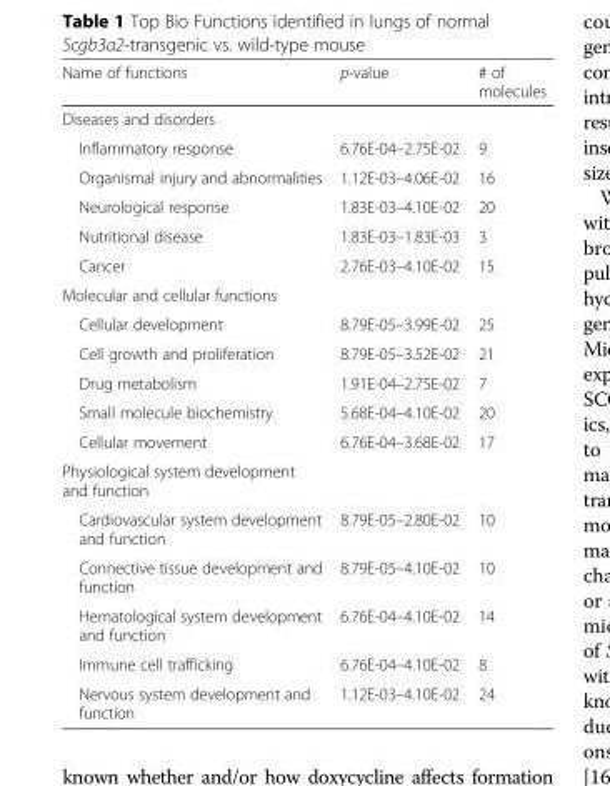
<table><thead><tr><td>Name of functions</td><td>p-value</td><td># of molecules</td></tr></thead><tbody><tr><td colspan="3">Diseases and disorders</td></tr><tr><td>Inflammatory response</td><td>6.76E-04–2.75E-02</td><td>9</td></tr><tr><td>Organismal injury and abnormalities</td><td>1.12E-03–4.06E-02</td><td>16</td></tr><tr><td>Neurological response</td><td>1.83E-03–4.10E-02</td><td>20</td></tr><tr><td>Nutritional disease</td><td>1.83E-03–1.83E-03</td><td>3</td></tr><tr><td>Cancer</td><td>2.76E-03–4.10E-02</td><td>15</td></tr><tr><td colspan="3">Molecular and cellular functions</td></tr><tr><td>Cellular development</td><td>8.79E-05–3.99E-02</td><td>25</td></tr><tr><td>Cell growth and proliferation</td><td>8.79E-05–3.52E-02</td><td>21</td></tr><tr><td>Drug metabolism</td><td>1.91E-04–2.75E-02</td><td>7</td></tr><tr><td>Small molecule biochemistry</td><td>5.68E-04–4.10E-02</td><td>20</td></tr><tr><td>Cellular movement</td><td>6.76E-04–3.68E-02</td><td>17</td></tr><tr><td colspan="3">Physiological system development and function</td></tr><tr><td>Cardiovascular system development and function</td><td>8.79E-05–2.80E-02</td><td>10</td></tr><tr><td>Connective tissue development and function</td><td>8.79E-05–4.10E-02</td><td>10</td></tr><tr><td>Hematological system development and function</td><td>6.76E-04–4.10E-02</td><td>14</td></tr><tr><td>Immune cell trafficking</td><td>6.76E-04–4.10E-02</td><td>8</td></tr><tr><td>Nervous system development and function</td><td>1.12E-03–4.10E-02</td><td>24</td></tr></tbody></table>